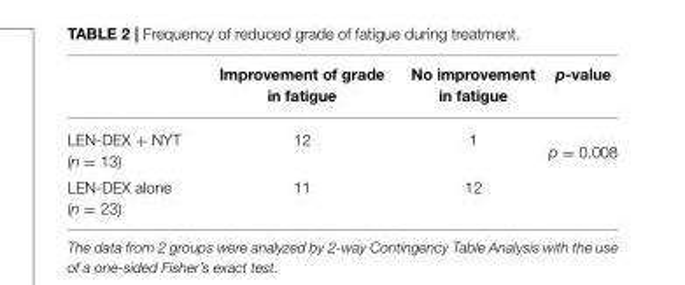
<table><thead><tr><td></td><td>Improvement of grade in fatigue</td><td>No improvement in fatigue</td><td>p-value</td></tr></thead><tbody><tr><td>LEN-DEX + NYT (n = 13)</td><td>12</td><td>1</td><td>p = 0.008</td></tr><tr><td>LEN-DEX alone (n = 23)</td><td>11</td><td>12</td><td></td></tr></tbody></table>